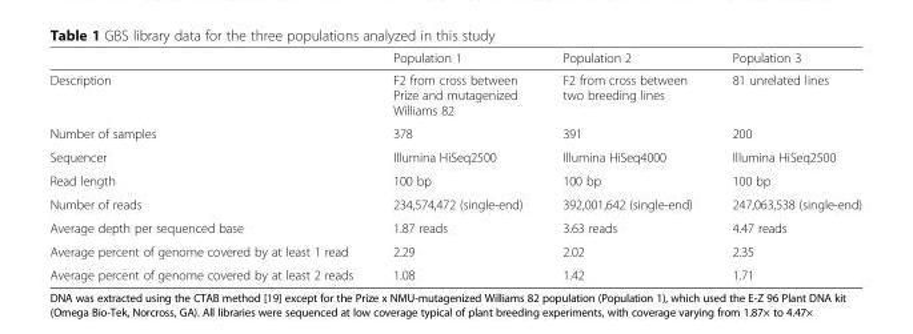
<table><thead><tr><td></td><td>Population 1</td><td>Population 2</td><td>Population 3</td></tr></thead><tbody><tr><td>Description</td><td>F2 from cross between Prize and mutagenized Williams 82</td><td>F2 from cross between two breeding lines</td><td>81 unrelated lines</td></tr><tr><td>Number of samples</td><td>378</td><td>391</td><td>200</td></tr><tr><td>Sequencer</td><td>Illumina HiSeq2500</td><td>Illumina HiSeq4000</td><td>Illumina HiSeq2500</td></tr><tr><td>Read length</td><td>100 bp</td><td>100 bp</td><td>100 bp</td></tr><tr><td>Number of reads</td><td>234,574,472 (single-end)</td><td>392,001,642 (single-end)</td><td>247,063,538 (single-end)</td></tr><tr><td>Average depth per sequenced base</td><td>1.87 reads</td><td>3.63 reads</td><td>4.47 reads</td></tr><tr><td>Average percent of genome covered by at least 1 read</td><td>2.29</td><td>2.02</td><td>2.35</td></tr><tr><td>Average percent of genome covered by at least 2 reads</td><td>1.08</td><td>1.42</td><td>1.71</td></tr></tbody></table>